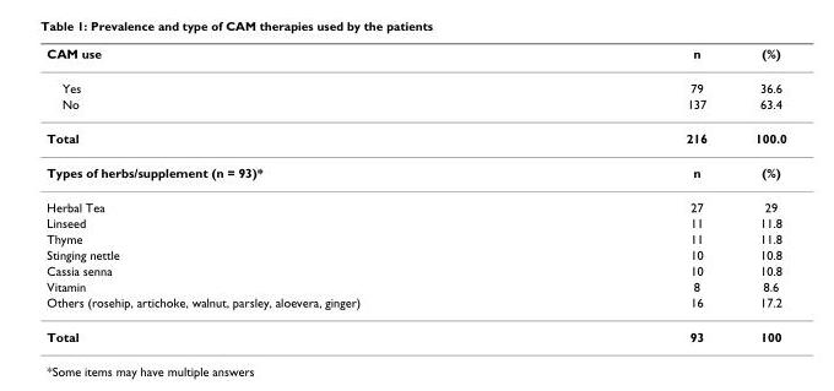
<table><thead><tr><td>CAM use</td><td>n</td><td>(%)</td></tr></thead><tbody><tr><td>Yes</td><td>79</td><td>36.6</td></tr><tr><td>No</td><td>137</td><td>63.4</td></tr><tr><td>Total</td><td>216</td><td>100.0</td></tr><tr><td>Types of herbs/supplement (n = 93)*</td><td>n</td><td>(%)</td></tr><tr><td>Herbal Tea</td><td>27</td><td>29</td></tr><tr><td>Linseed</td><td>11</td><td>11.8</td></tr><tr><td>Thyme</td><td>11</td><td>11.8</td></tr><tr><td>Stinging nettle</td><td>10</td><td>10.8</td></tr><tr><td>Cassia senna</td><td>10</td><td>10.8</td></tr><tr><td>Vitamin</td><td>8</td><td>8.6</td></tr><tr><td>Others (rosehip, artichoke, walnut, parsley, aloevera, ginger)</td><td>16</td><td>17.2</td></tr><tr><td>Total</td><td>93</td><td>100</td></tr></tbody></table>